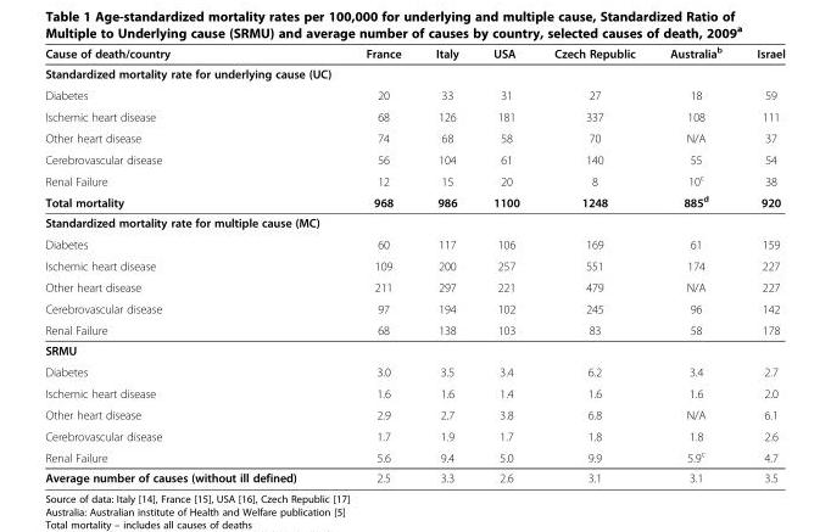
<table><thead><tr><td>Cause of death/country</td><td>France</td><td>Italy</td><td>USA</td><td>Czech Republic</td><td>Australia<sup>b</sup></td><td>Israel</td></tr></thead><tbody><tr><td colspan="7">Standardized mortality rate for underlying cause (UC)</td></tr><tr><td>Diabetes</td><td>20</td><td>33</td><td>31</td><td>27</td><td>18</td><td>59</td></tr><tr><td>Ischemic heart disease</td><td>68</td><td>126</td><td>181</td><td>337</td><td>108</td><td>111</td></tr><tr><td>Other heart disease</td><td>74</td><td>68</td><td>58</td><td>70</td><td>N/A</td><td>37</td></tr><tr><td>Cerebrovascular disease</td><td>56</td><td>104</td><td>61</td><td>140</td><td>55</td><td>54</td></tr><tr><td>Renal Failure</td><td>12</td><td>15</td><td>20</td><td>8</td><td>10<sup>c</sup></td><td>38</td></tr><tr><td>Total mortality</td><td>968</td><td>986</td><td>1100</td><td>1248</td><td>885<sup>d</sup></td><td>920</td></tr><tr><td colspan="7">Standardized mortality rate for multiple cause (MC)</td></tr><tr><td>Diabetes</td><td>60</td><td>117</td><td>106</td><td>169</td><td>61</td><td>159</td></tr><tr><td>Ischemic heart disease</td><td>109</td><td>200</td><td>257</td><td>551</td><td>174</td><td>227</td></tr><tr><td>Other heart disease</td><td>211</td><td>297</td><td>221</td><td>479</td><td>N/A</td><td>227</td></tr><tr><td>Cerebrovascular disease</td><td>97</td><td>194</td><td>102</td><td>245</td><td>96</td><td>142</td></tr><tr><td>Renal Failure</td><td>68</td><td>138</td><td>103</td><td>83</td><td>58</td><td>178</td></tr><tr><td colspan="7">SRMU</td></tr><tr><td>Diabetes</td><td>3.0</td><td>3.5</td><td>3.4</td><td>6.2</td><td>3.4</td><td>2.7</td></tr><tr><td>Ischemic heart disease</td><td>1.6</td><td>1.6</td><td>1.4</td><td>1.6</td><td>1.6</td><td>2.0</td></tr><tr><td>Other heart disease</td><td>2.9</td><td>2.7</td><td>3.8</td><td>6.8</td><td>N/A</td><td>6.1</td></tr><tr><td>Cerebrovascular disease</td><td>1.7</td><td>1.9</td><td>1.7</td><td>1.8</td><td>1.8</td><td>2.6</td></tr><tr><td>Renal Failure</td><td>5.6</td><td>9.4</td><td>5.0</td><td>9.9</td><td>5.9<sup>c</sup></td><td>4.7</td></tr><tr><td>Average number of causes (without ill defined)</td><td>2.5</td><td>3.3</td><td>2.6</td><td>3.1</td><td>3.1</td><td>3.5</td></tr></tbody></table>